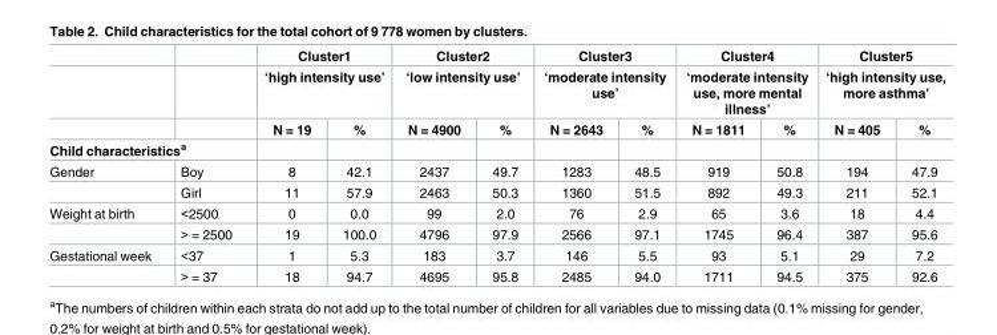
<table><thead><tr><td rowspan="3"></td><td rowspan="3"></td><td rowspan="2" colspan="2">Cluster1 ‘high intensity use’</td><td rowspan="2" colspan="2">Cluster2 ‘low intensity use’</td><td rowspan="2" colspan="2">Cluster3 ‘moderate intensity use’</td><td rowspan="2" colspan="2">Cluster4 ‘moderate intensity use, more mental illness’</td><td rowspan="2" colspan="2">Cluster5 ‘high intensity use, more asthma’</td></tr><tr></tr><tr><td>N = 19</td><td>%</td><td>N = 4900</td><td>%</td><td>N = 2643</td><td>%</td><td>N = 1811</td><td>%</td><td>N = 405</td><td>%</td></tr></thead><tbody><tr><td colspan="12">Child characteristics<sup>a</sup></td></tr><tr><td rowspan="2">Gender</td><td>Boy</td><td>8</td><td>42.1</td><td>2437</td><td>49.7</td><td>1283</td><td>48.5</td><td>919</td><td>50.8</td><td>194</td><td>47.9</td></tr><tr><td>Girl</td><td>11</td><td>57.9</td><td>2463</td><td>50.3</td><td>1360</td><td>51.5</td><td>892</td><td>49.3</td><td>211</td><td>52.1</td></tr><tr><td rowspan="2">Weight at birth</td><td>&lt;2500</td><td>0</td><td>0.0</td><td>99</td><td>2.0</td><td>76</td><td>2.9</td><td>65</td><td>3.6</td><td>18</td><td>4.4</td></tr><tr><td>&gt; = 2500</td><td>19</td><td>100.0</td><td>4796</td><td>97.9</td><td>2566</td><td>97.1</td><td>1745</td><td>96.4</td><td>387</td><td>95.6</td></tr><tr><td rowspan="2">Gestational week</td><td>&lt;37</td><td>1</td><td>5.3</td><td>183</td><td>3.7</td><td>146</td><td>5.5</td><td>93</td><td>5.1</td><td>29</td><td>7.2</td></tr><tr><td>&gt; = 37</td><td>18</td><td>94.7</td><td>4695</td><td>95.8</td><td>2485</td><td>94.0</td><td>1711</td><td>94.5</td><td>375</td><td>92.6</td></tr></tbody></table>